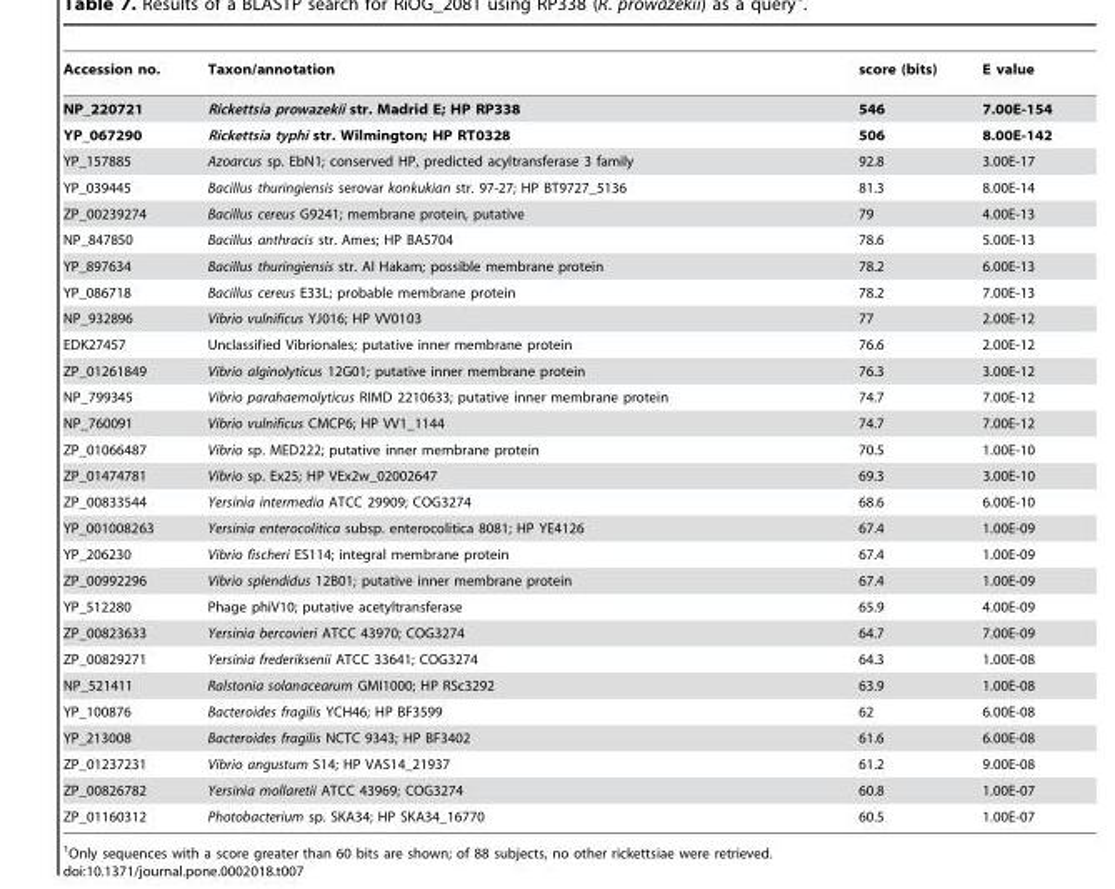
<table><thead><tr><td>Accession no.</td><td>Taxon/annotation</td><td>score (bits)</td><td>E value</td></tr></thead><tbody><tr><td>NP_220721</td><td>Rickettsia prowazekii str. Madrid E; HP RP338</td><td>546</td><td>7.00E-154</td></tr><tr><td>YP_067290</td><td>Rickettsia typhi str. Wilmington; HP RT0328</td><td>506</td><td>8.00E-142</td></tr><tr><td>YP_157885</td><td>Azoarcus sp. EbN1; conserved HP, predicted acyltransferase 3 family</td><td>92.8</td><td>3.00E-17</td></tr><tr><td>YP_039445</td><td>Bacillus thuringiensis serovar konkukian str. 97-27; HP BT9727_5136</td><td>81.3</td><td>8.00E-14</td></tr><tr><td>ZP_00239274</td><td>Bacillus cereus G9241; membrane protein, putative</td><td>79</td><td>4.00E-13</td></tr><tr><td>NP_847850</td><td>Bacillus anthracis str. Ames; HP BA5704</td><td>78.6</td><td>5.00E-13</td></tr><tr><td>YP_897634</td><td>Bacillus thuringiensis str. Al Hakam; possible membrane protein</td><td>78.2</td><td>6.00E-13</td></tr><tr><td>YP_086718</td><td>Bacillus cereus E33L; probable membrane protein</td><td>78.2</td><td>7.00E-13</td></tr><tr><td>NP_932896</td><td>Vibrio vulnificus YJ016; HP VV0103</td><td>77</td><td>2.00E-12</td></tr><tr><td>EDK27457</td><td>Unclassified Vibrionales; putative inner membrane protein</td><td>76.6</td><td>2.00E-12</td></tr><tr><td>ZP_01261849</td><td>Vibrio alginolyticus 12G01; putative inner membrane protein</td><td>76.3</td><td>3.00E-12</td></tr><tr><td>NP_799345</td><td>Vibrio parahaemolyticus RIMD 2210633; putative inner membrane protein</td><td>74.7</td><td>7.00E-12</td></tr><tr><td>NP_760091</td><td>Vibrio vulnificus CMCP6; HP VV1_1144</td><td>74.7</td><td>7.00E-12</td></tr><tr><td>ZP_01066487</td><td>Vibrio sp. MED222; putative inner membrane protein</td><td>70.5</td><td>1.00E-10</td></tr><tr><td>ZP_01474781</td><td>Vibrio sp. Ex25; HP VEx2w_02002647</td><td>69.3</td><td>3.00E-10</td></tr><tr><td>ZP_00833544</td><td>Yersinia intermedia ATCC 29909; COG3274</td><td>68.6</td><td>6.00E-10</td></tr><tr><td>YP_001008263</td><td>Yersinia enterocolitica subsp. enterocolitica 8081; HP YE4126</td><td>67.4</td><td>1.00E-09</td></tr><tr><td>YP_206230</td><td>Vibrio fischeri ES114; integral membrane protein</td><td>67.4</td><td>1.00E-09</td></tr><tr><td>ZP_00992296</td><td>Vibrio splendidus 12B01; putative inner membrane protein</td><td>67.4</td><td>1.00E-09</td></tr><tr><td>YP_512280</td><td>Phage phiV10; putative acetyltransferase</td><td>65.9</td><td>4.00E-09</td></tr><tr><td>ZP_00823633</td><td>Yersinia bercovieri ATCC 43970; COG3274</td><td>64.7</td><td>7.00E-09</td></tr><tr><td>ZP_00829271</td><td>Yersinia frederiksenii ATCC 33641; COG3274</td><td>64.3</td><td>1.00E-08</td></tr><tr><td>NP_521411</td><td>Ralstonia solanacearum GMI1000; HP RSc3292</td><td>63.9</td><td>1.00E-08</td></tr><tr><td>YP_100876</td><td>Bacteroides fragilis YCH46; HP BF3599</td><td>62</td><td>6.00E-08</td></tr><tr><td>YP_213008</td><td>Bacteroides fragilis NCTC 9343; HP BF3402</td><td>61.6</td><td>6.00E-08</td></tr><tr><td>ZP_01237231</td><td>Vibrio angustum S14; HP VAS14_21937</td><td>61.2</td><td>9.00E-08</td></tr><tr><td>ZP_00826782</td><td>Yersinia mollaretii ATCC 43969; COG3274</td><td>60.8</td><td>1.00E-07</td></tr><tr><td>ZP_01160312</td><td>Photobacterium sp. SKA34; HP SKA34_16770</td><td>60.5</td><td>1.00E-07</td></tr></tbody></table>